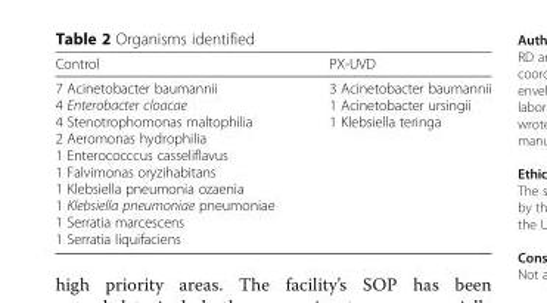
<table><thead><tr><td>Control</td><td>PX-UVD</td></tr></thead><tbody><tr><td>7 Acinetobacter baumannii 4 Enterobacter cloacae 4 Stenotrophomonas maltophilia 2 Aeromonas hydrophilia 1 Enterococccus casseliflavus 1 Falvimonas oryzihabitans 1 Klebsiella pneumonia ozaenia 1 Klebsiella pneumoniae pneumoniae 1 Serratia marcescens 1 Serratia liquifaciens</td><td>3 Acinetobacter baumannii 1 Acinetobacter ursingii 1 Klebsiella teringa</td></tr></tbody></table>